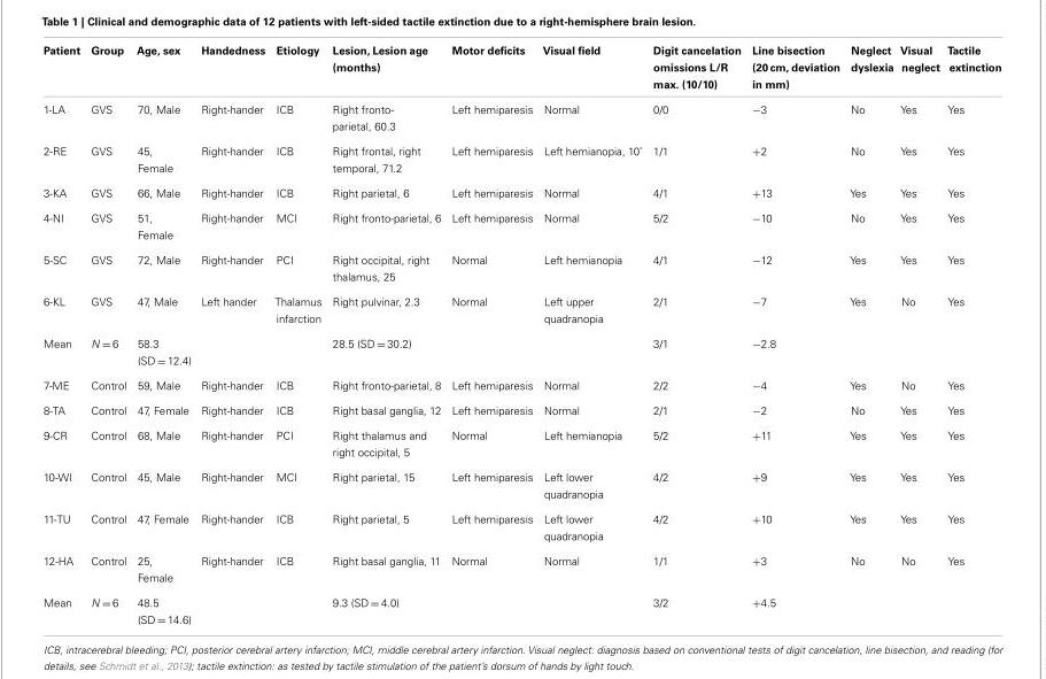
<table><thead><tr><td>Patient</td><td>Group</td><td>Age, sex</td><td>Handedness</td><td>Etiology</td><td>Lesion, Lesion age (months)</td><td>Motor deficits</td><td>Visual field</td><td>Digit cancelation omissions L/R max. (10/10)</td><td>Line bisection (20 cm, deviation in mm)</td><td>Neglect dyslexia</td><td>Visual neglect</td><td>Tactile extinction</td></tr></thead><tbody><tr><td>1-LA</td><td>GVS</td><td>70, Male</td><td>Right-hander</td><td>ICB</td><td>Right fronto- parietal, 60.3</td><td>Left hemiparesis</td><td>Normal</td><td>0/0</td><td>−3</td><td>No</td><td>Yes</td><td>Yes</td></tr><tr><td>2-RE</td><td>GVS</td><td>45, Female</td><td>Right-hander</td><td>ICB</td><td>Right frontal, right temporal, 71.2</td><td>Left hemiparesis</td><td>Left hemianopia, 10˚</td><td>1/1</td><td>+2</td><td>No</td><td>Yes</td><td>Yes</td></tr><tr><td>3-KA</td><td>GVS</td><td>66, Male</td><td>Right-hander</td><td>ICB</td><td>Right parietal, 6</td><td>Left hemiparesis</td><td>Normal</td><td>4/1</td><td>+13</td><td>Yes</td><td>Yes</td><td>Yes</td></tr><tr><td>4-NI</td><td>GVS</td><td>51, Female</td><td>Right-hander</td><td>MCI</td><td>Right fronto-parietal, 6</td><td>Left hemiparesis</td><td>Normal</td><td>5/2</td><td>−10</td><td>No</td><td>Yes</td><td>Yes</td></tr><tr><td>5-SC</td><td>GVS</td><td>72, Male</td><td>Right-hander</td><td>PCI</td><td>Right occipital, right thalamus, 25</td><td>Normal</td><td>Left hemianopia</td><td>4/1</td><td>−12</td><td>Yes</td><td>Yes</td><td>Yes</td></tr><tr><td>6-KL</td><td>GVS</td><td>47, Male</td><td>Left hander</td><td>Thalamus infarction</td><td>Right pulvinar, 2.3</td><td>Normal</td><td>Left upper quadranopia</td><td>2/1</td><td>−7</td><td>Yes</td><td>No</td><td>Yes</td></tr><tr><td>Mean</td><td>N = 6</td><td>58.3 (SD = 12.4)</td><td></td><td></td><td>28.5 (SD = 30.2)</td><td></td><td></td><td>3/1</td><td>−2.8</td><td></td><td></td><td></td></tr><tr><td>7-ME</td><td>Control</td><td>59, Male</td><td>Right-hander</td><td>ICB</td><td>Right fronto-parietal, 8</td><td>Left hemiparesis</td><td>Normal</td><td>2/2</td><td>−4</td><td>Yes</td><td>No</td><td>Yes</td></tr><tr><td>8-TA</td><td>Control</td><td>47, Female</td><td>Right-hander</td><td>ICB</td><td>Right basal ganglia, 12</td><td>Left hemiparesis</td><td>Normal</td><td>2/1</td><td>−2</td><td>No</td><td>Yes</td><td>Yes</td></tr><tr><td>9-CR</td><td>Control</td><td>68, Male</td><td>Right-hander</td><td>PCI</td><td>Right thalamus and right occipital, 5</td><td>Normal</td><td>Left hemianopia</td><td>5/2</td><td>+11</td><td>Yes</td><td>Yes</td><td>Yes</td></tr><tr><td>10-WI</td><td>Control</td><td>45, Male</td><td>Right-hander</td><td>MCI</td><td>Right parietal, 15</td><td>Left hemiparesis</td><td>Left lower quadranopia</td><td>4/2</td><td>+9</td><td>Yes</td><td>Yes</td><td>Yes</td></tr><tr><td>11-TU</td><td>Control</td><td>47, Female</td><td>Right-hander</td><td>ICB</td><td>Right parietal, 5</td><td>Left hemiparesis</td><td>Left lower quadranopia</td><td>4/2</td><td>+10</td><td>Yes</td><td>Yes</td><td>Yes</td></tr><tr><td>12-HA</td><td>Control</td><td>25, Female</td><td>Right-hander</td><td>ICB</td><td>Right basal ganglia, 11</td><td>Normal</td><td>Normal</td><td>1/1</td><td>+3</td><td>No</td><td>No</td><td>Yes</td></tr><tr><td>Mean</td><td>N = 6</td><td>48.5 (SD = 14.6)</td><td></td><td></td><td>9.3 (SD = 4.0)</td><td></td><td></td><td>3/2</td><td>+4.5</td><td></td><td></td><td></td></tr></tbody></table>